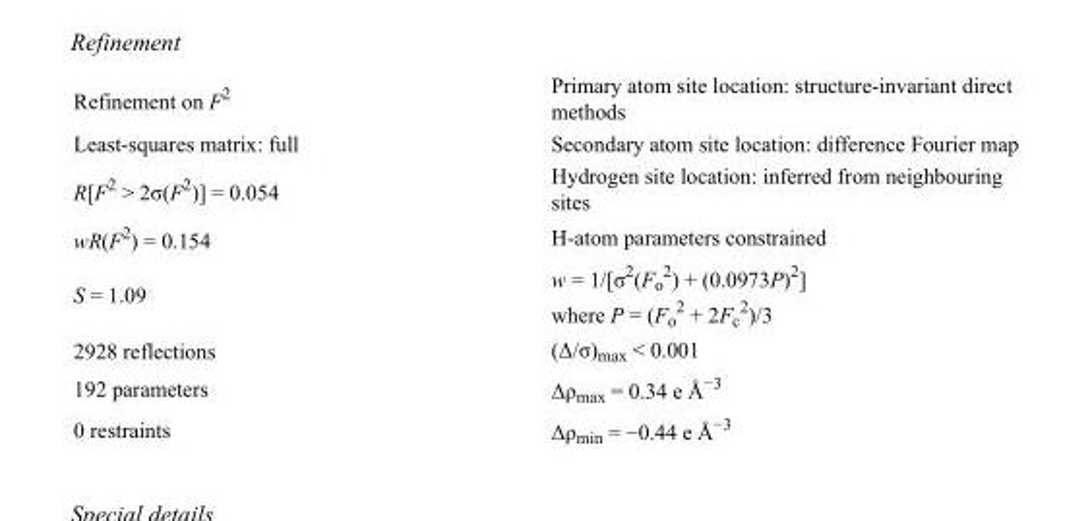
<table><tbody><tr><td>Refinement on F<sup>2</sup></td><td>Primary atom site location: structure-invariant direct methods</td></tr><tr><td>Least-squares matrix: full</td><td>Secondary atom site location: difference Fourier map</td></tr><tr><td>R[F<sup>2</sup> &gt; 2σ(F<sup>2</sup>)] = 0.054</td><td>Hydrogen site location: inferred from neighbouring sites</td></tr><tr><td>wR(F<sup>2</sup>) = 0.154</td><td>H-atom parameters constrained</td></tr><tr><td>S = 1.09</td><td>w = 1/[σ<sup>2</sup>(F<sub>o</sub> <sup>2</sup>) + (0.0973P)<sup>2</sup>] where P = (F<sub>o</sub> <sup>2</sup> + 2F<sub>c</sub> <sup>2</sup>)/3</td></tr><tr><td>2928 reflections</td><td>(Δ/σ)<sub>max</sub> &lt; 0.001</td></tr><tr><td>192 parameters</td><td>Δρ<sub>max</sub> = 0.34 e Å<sup>−3</sup></td></tr><tr><td>0 restraints</td><td>Δρ<sub>min</sub> = −0.44 e Å<sup>−3</sup></td></tr></tbody></table>